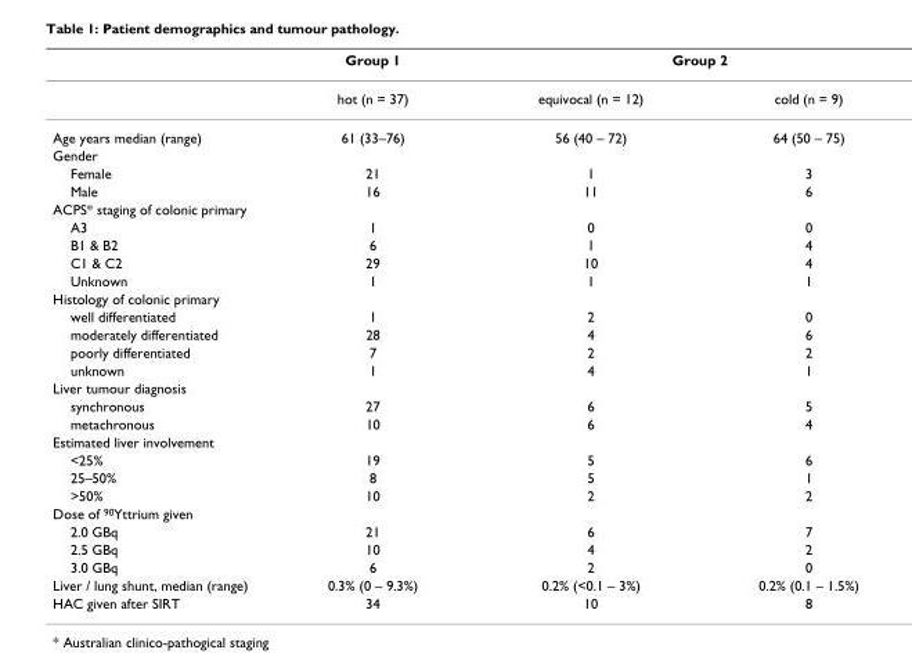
<table><thead><tr><td rowspan="2"></td><td rowspan="2">Group 1 hot (n = 37)</td><td colspan="2">Group 2</td></tr><tr><td>equivocal (n = 12)</td><td>cold (n = 9)</td></tr></thead><tbody><tr><td>Age years median (range)</td><td>61 (33–76)</td><td>56 (40 – 72)</td><td>64 (50 – 75)</td></tr><tr><td colspan="4">Gender</td></tr><tr><td>Female</td><td>21</td><td>1</td><td>3</td></tr><tr><td>Male</td><td>16</td><td>11</td><td>6</td></tr><tr><td colspan="4">ACPS* staging of colonic primary</td></tr><tr><td>A3</td><td>1</td><td>0</td><td>0</td></tr><tr><td>B1 &amp; B2</td><td>6</td><td>1</td><td>4</td></tr><tr><td>C1 &amp; C2</td><td>29</td><td>10</td><td>4</td></tr><tr><td>Unknown</td><td>1</td><td>1</td><td>1</td></tr><tr><td colspan="4">Histology of colonic primary</td></tr><tr><td>well differentiated</td><td>1</td><td>2</td><td>0</td></tr><tr><td>moderately differentiated</td><td>28</td><td>4</td><td>6</td></tr><tr><td>poorly differentiated</td><td>7</td><td>2</td><td>2</td></tr><tr><td>unknown</td><td>1</td><td>4</td><td>1</td></tr><tr><td colspan="4">Liver tumour diagnosis</td></tr><tr><td>synchronous</td><td>27</td><td>6</td><td>5</td></tr><tr><td>metachronous</td><td>10</td><td>6</td><td>4</td></tr><tr><td colspan="4">Estimated liver involvement</td></tr><tr><td>&lt;25%</td><td>19</td><td>5</td><td>6</td></tr><tr><td>25–50%</td><td>8</td><td>5</td><td>1</td></tr><tr><td>&gt;50%</td><td>10</td><td>2</td><td>2</td></tr><tr><td colspan="4">Dose of <sup>90</sup>Yttrium given</td></tr><tr><td>2.0 GBq</td><td>21</td><td>6</td><td>7</td></tr><tr><td>2.5 GBq</td><td>10</td><td>4</td><td>2</td></tr><tr><td>3.0 GBq</td><td>6</td><td>2</td><td>0</td></tr><tr><td>Liver / lung shunt, median (range)</td><td>0.3% (0 – 9.3%)</td><td>0.2% (&lt;0.1 – 3%)</td><td>0.2% (0.1 – 1.5%)</td></tr><tr><td>HAC given after SIRT</td><td>34</td><td>10</td><td>8</td></tr></tbody></table>